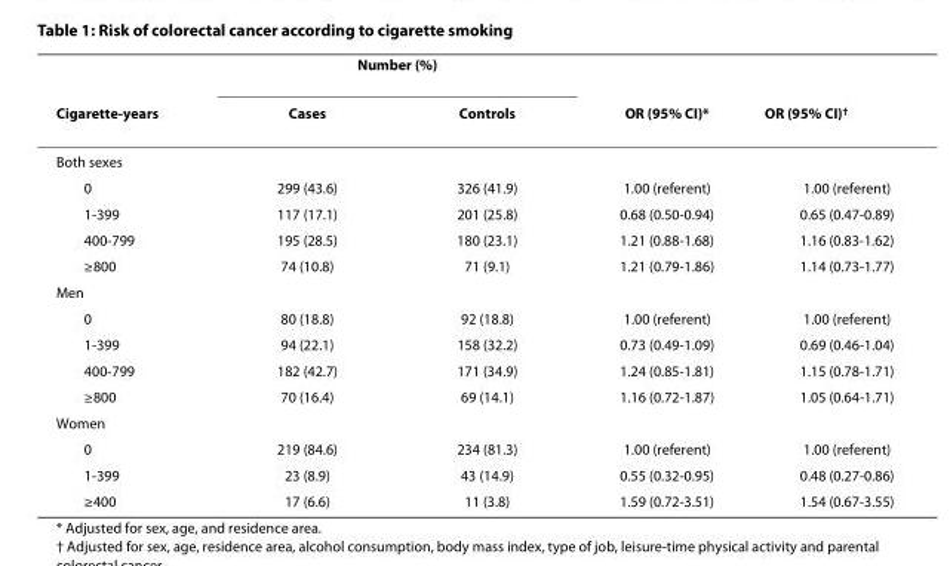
<table><thead><tr><td rowspan="2">Cigarette-years</td><td colspan="2">Number (%)</td><td rowspan="2">OR (95% CI)*</td><td rowspan="2">OR (95% CI)<sup>†</sup></td></tr><tr><td>Cases</td><td>Controls</td></tr></thead><tbody><tr><td colspan="5">Both sexes</td></tr><tr><td>0</td><td>299 (43.6)</td><td>326 (41.9)</td><td>1.00 (referent)</td><td>1.00 (referent)</td></tr><tr><td>1-399</td><td>117 (17.1)</td><td>201 (25.8)</td><td>0.68 (0.50-0.94)</td><td>0.65 (0.47-0.89)</td></tr><tr><td>400-799</td><td>195 (28.5)</td><td>180 (23.1)</td><td>1.21 (0.88-1.68)</td><td>1.16 (0.83-1.62)</td></tr><tr><td>≥800</td><td>74 (10.8)</td><td>71 (9.1)</td><td>1.21 (0.79-1.86)</td><td>1.14 (0.73-1.77)</td></tr><tr><td colspan="5">Men</td></tr><tr><td>0</td><td>80 (18.8)</td><td>92 (18.8)</td><td>1.00 (referent)</td><td>1.00 (referent)</td></tr><tr><td>1-399</td><td>94 (22.1)</td><td>158 (32.2)</td><td>0.73 (0.49-1.09)</td><td>0.69 (0.46-1.04)</td></tr><tr><td>400-799</td><td>182 (42.7)</td><td>171 (34.9)</td><td>1.24 (0.85-1.81)</td><td>1.15 (0.78-1.71)</td></tr><tr><td>≥800</td><td>70 (16.4)</td><td>69 (14.1)</td><td>1.16 (0.72-1.87)</td><td>1.05 (0.64-1.71)</td></tr><tr><td colspan="5">Women</td></tr><tr><td>0</td><td>219 (84.6)</td><td>234 (81.3)</td><td>1.00 (referent)</td><td>1.00 (referent)</td></tr><tr><td>1-399</td><td>23 (8.9)</td><td>43 (14.9)</td><td>0.55 (0.32-0.95)</td><td>0.48 (0.27-0.86)</td></tr><tr><td>≥400</td><td>17 (6.6)</td><td>11 (3.8)</td><td>1.59 (0.72-3.51)</td><td>1.54 (0.67-3.55)</td></tr></tbody></table>